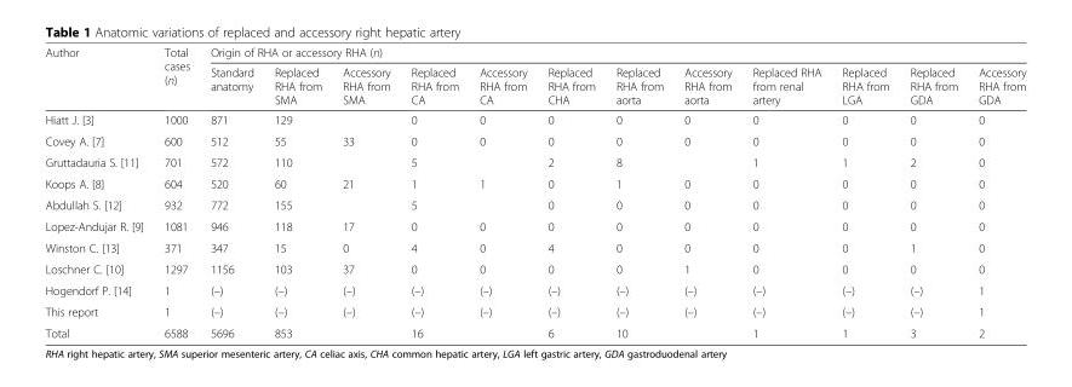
<table><thead><tr><td rowspan="2">Author</td><td rowspan="2">Total cases (n)</td><td colspan="12">Origin of RHA or accessory RHA (n)</td></tr><tr><td>Standard anatomy</td><td>Replaced RHA from SMA</td><td>Accessory RHA from SMA</td><td>Replaced RHA from CA</td><td>Accessory RHA from CA</td><td>Replaced RHA from CHA</td><td>Replaced RHA from aorta</td><td>Accessory RHA from aorta</td><td>Replaced RHA from renal artery</td><td>Replaced RHA from LGA</td><td>Replaced RHA from GDA</td><td>Accessory RHA from GDA</td></tr></thead><tbody><tr><td>Hiatt J. [3]</td><td>1000</td><td>871</td><td colspan="2">129</td><td>0</td><td>0</td><td>0</td><td>0</td><td>0</td><td>0</td><td>0</td><td>0</td><td>0</td></tr><tr><td>Covey A. [7]</td><td>600</td><td>512</td><td>55</td><td>33</td><td>0</td><td>0</td><td>0</td><td>0</td><td>0</td><td>0</td><td>0</td><td>0</td><td>0</td></tr><tr><td>Gruttadauria S. [11]</td><td>701</td><td>572</td><td colspan="2">110</td><td colspan="2">5</td><td>2</td><td colspan="2">8</td><td>1</td><td>1</td><td>2</td><td>0</td></tr><tr><td>Koops A. [8]</td><td>604</td><td>520</td><td>60</td><td>21</td><td>1</td><td>1</td><td>0</td><td>1</td><td>0</td><td>0</td><td>0</td><td>0</td><td>0</td></tr><tr><td>Abdullah S. [12]</td><td>932</td><td>772</td><td colspan="2">155</td><td colspan="2">5</td><td>0</td><td>0</td><td>0</td><td>0</td><td>0</td><td>0</td><td>0</td></tr><tr><td>Lopez-Andujar R. [9]</td><td>1081</td><td>946</td><td>118</td><td>17</td><td>0</td><td>0</td><td>0</td><td>0</td><td>0</td><td>0</td><td>0</td><td>0</td><td>0</td></tr><tr><td>Winston C. [13]</td><td>371</td><td>347</td><td>15</td><td>0</td><td>4</td><td>0</td><td>4</td><td>0</td><td>0</td><td>0</td><td>0</td><td>1</td><td>0</td></tr><tr><td>Loschner C. [10]</td><td>1297</td><td>1156</td><td>103</td><td>37</td><td>0</td><td>0</td><td>0</td><td>0</td><td>1</td><td>0</td><td>0</td><td>0</td><td>0</td></tr><tr><td>Hogendorf P. [14]</td><td>1</td><td>(–)</td><td>(–)</td><td>(–)</td><td>(–)</td><td>(–)</td><td>(–)</td><td>(–)</td><td>(–)</td><td>(–)</td><td>(–)</td><td>(–)</td><td>1</td></tr><tr><td>This report</td><td>1</td><td>(–)</td><td>(–)</td><td>(–)</td><td>(–)</td><td>(–)</td><td>(–)</td><td>(–)</td><td>(–)</td><td>(–)</td><td>(–)</td><td>(–)</td><td>1</td></tr><tr><td>Total</td><td>6588</td><td>5696</td><td colspan="2">853</td><td colspan="2">16</td><td>6</td><td colspan="2">10</td><td>1</td><td>1</td><td>3</td><td>2</td></tr></tbody></table>